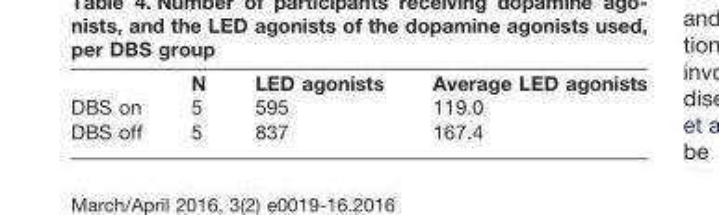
<table><thead><tr><td></td><td>N</td><td>LED agonists</td><td>Average LED agonists</td></tr></thead><tbody><tr><td>DBS on</td><td>5</td><td>595</td><td>119.0</td></tr><tr><td>DBS off</td><td>5</td><td>837</td><td>167.4</td></tr></tbody></table>